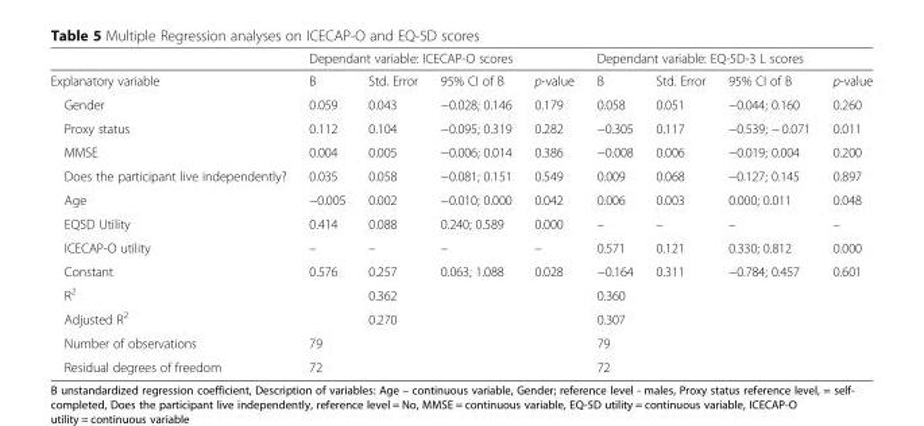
<table><thead><tr><td rowspan="2">Explanatory variable</td><td colspan="4">Dependant variable: ICECAP-O scores</td><td colspan="4">Dependant variable: EQ-5D-3 L scores</td></tr><tr><td>B</td><td>Std. Error</td><td>95% CI of B</td><td>p-value</td><td>B</td><td>Std. Error</td><td>95% CI of B</td><td>p-value</td></tr></thead><tbody><tr><td>Gender</td><td>0.059</td><td>0.043</td><td>−0.028; 0.146</td><td>0.179</td><td>0.058</td><td>0.051</td><td>−0.044; 0.160</td><td>0.260</td></tr><tr><td>Proxy status</td><td>0.112</td><td>0.104</td><td>−0.095; 0.319</td><td>0.282</td><td>−0.305</td><td>0.117</td><td>−0.539; − 0.071</td><td>0.011</td></tr><tr><td>MMSE</td><td>0.004</td><td>0.005</td><td>−0.006; 0.014</td><td>0.386</td><td>−0.008</td><td>0.006</td><td>−0.019; 0.004</td><td>0.200</td></tr><tr><td>Does the participant live independently?</td><td>0.035</td><td>0.058</td><td>−0.081; 0.151</td><td>0.549</td><td>0.009</td><td>0.068</td><td>−0.127; 0.145</td><td>0.897</td></tr><tr><td>Age</td><td>−0.005</td><td>0.002</td><td>−0.010; 0.000</td><td>0.042</td><td>0.006</td><td>0.003</td><td>0.000; 0.011</td><td>0.048</td></tr><tr><td>EQ5D Utility</td><td>0.414</td><td>0.088</td><td>0.240; 0.589</td><td>0.000</td><td>–</td><td>–</td><td>–</td><td>–</td></tr><tr><td>ICECAP-O utility</td><td>–</td><td>–</td><td>–</td><td>–</td><td>0.571</td><td>0.121</td><td>0.330; 0.812</td><td>0.000</td></tr><tr><td>Constant</td><td>0.576</td><td>0.257</td><td>0.063; 1.088</td><td>0.028</td><td>−0.164</td><td>0.311</td><td>−0.784; 0.457</td><td>0.601</td></tr><tr><td>R<sup>2</sup></td><td></td><td>0.362</td><td></td><td></td><td>0.360</td><td></td><td></td><td></td></tr><tr><td>Adjusted R<sup>2</sup></td><td></td><td>0.270</td><td></td><td></td><td>0.307</td><td></td><td></td><td></td></tr><tr><td>Number of observations</td><td>79</td><td></td><td></td><td></td><td>79</td><td></td><td></td><td></td></tr><tr><td>Residual degrees of freedom</td><td>72</td><td></td><td></td><td></td><td>72</td><td></td><td></td><td></td></tr></tbody></table>